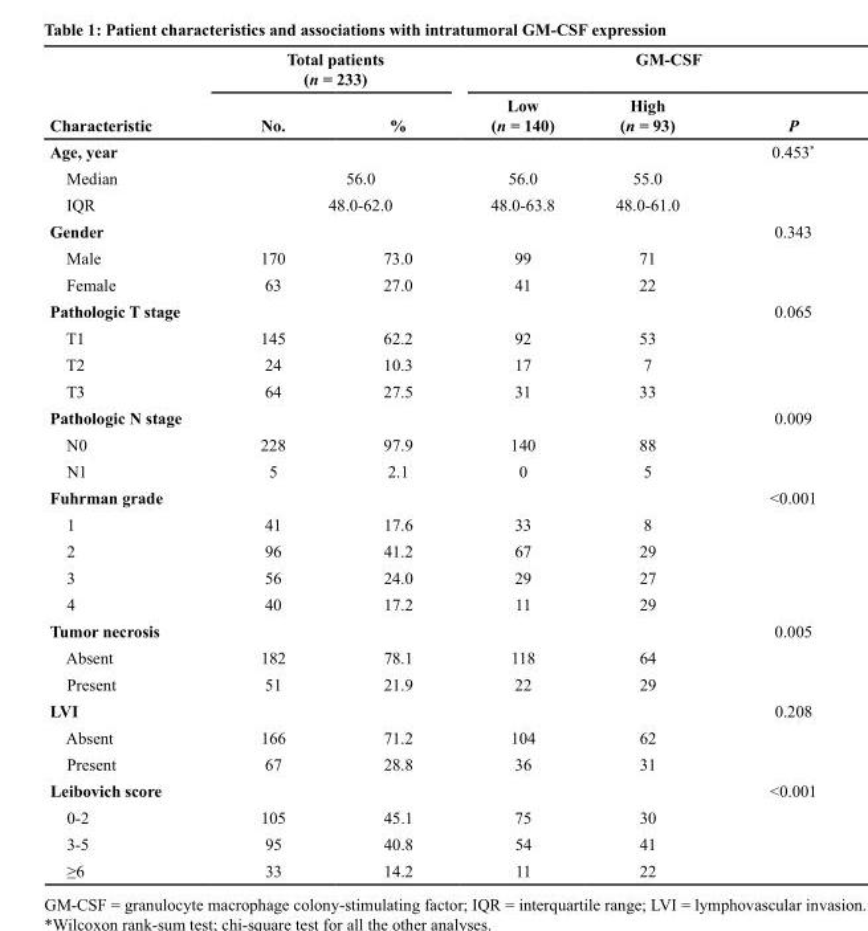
<table><thead><tr><td rowspan="2">Characteristic</td><td colspan="2">Total patients (n = 233)</td><td colspan="3">GM-CSF</td></tr><tr><td>No.</td><td>%</td><td>Low (n = 140)</td><td>High (n = 93)</td><td>P</td></tr></thead><tbody><tr><td>Age, year</td><td></td><td></td><td></td><td></td><td>0.453*</td></tr><tr><td>Median</td><td colspan="2">56.0</td><td>56.0</td><td>55.0</td><td></td></tr><tr><td>IQR</td><td colspan="2">48.0-62.0</td><td>48.0-63.8</td><td>48.0-61.0</td><td></td></tr><tr><td>Gender</td><td></td><td></td><td></td><td></td><td>0.343</td></tr><tr><td>Male</td><td>170</td><td>73.0</td><td>99</td><td>71</td><td></td></tr><tr><td>Female</td><td>63</td><td>27.0</td><td>41</td><td>22</td><td></td></tr><tr><td>Pathologic T stage</td><td></td><td></td><td></td><td></td><td>0.065</td></tr><tr><td>T1</td><td>145</td><td>62.2</td><td>92</td><td>53</td><td></td></tr><tr><td>T2</td><td>24</td><td>10.3</td><td>17</td><td>7</td><td></td></tr><tr><td>T3</td><td>64</td><td>27.5</td><td>31</td><td>33</td><td></td></tr><tr><td>Pathologic N stage</td><td></td><td></td><td></td><td></td><td>0.009</td></tr><tr><td>N0</td><td>228</td><td>97.9</td><td>140</td><td>88</td><td></td></tr><tr><td>N1</td><td>5</td><td>2.1</td><td>0</td><td>5</td><td></td></tr><tr><td>Fuhrman grade</td><td></td><td></td><td></td><td></td><td>&lt;0.001</td></tr><tr><td>1</td><td>41</td><td>17.6</td><td>33</td><td>8</td><td></td></tr><tr><td>2</td><td>96</td><td>41.2</td><td>67</td><td>29</td><td></td></tr><tr><td>3</td><td>56</td><td>24.0</td><td>29</td><td>27</td><td></td></tr><tr><td>4</td><td>40</td><td>17.2</td><td>11</td><td>29</td><td></td></tr><tr><td>Tumor necrosis</td><td></td><td></td><td></td><td></td><td>0.005</td></tr><tr><td>Absent</td><td>182</td><td>78.1</td><td>118</td><td>64</td><td></td></tr><tr><td>Present</td><td>51</td><td>21.9</td><td>22</td><td>29</td><td></td></tr><tr><td>LVI</td><td></td><td></td><td></td><td></td><td>0.208</td></tr><tr><td>Absent</td><td>166</td><td>71.2</td><td>104</td><td>62</td><td></td></tr><tr><td>Present</td><td>67</td><td>28.8</td><td>36</td><td>31</td><td></td></tr><tr><td>Leibovich score</td><td></td><td></td><td></td><td></td><td>&lt;0.001</td></tr><tr><td>0-2</td><td>105</td><td>45.1</td><td>75</td><td>30</td><td></td></tr><tr><td>3-5</td><td>95</td><td>40.8</td><td>54</td><td>41</td><td></td></tr><tr><td>≥6</td><td>33</td><td>14.2</td><td>11</td><td>22</td><td></td></tr></tbody></table>